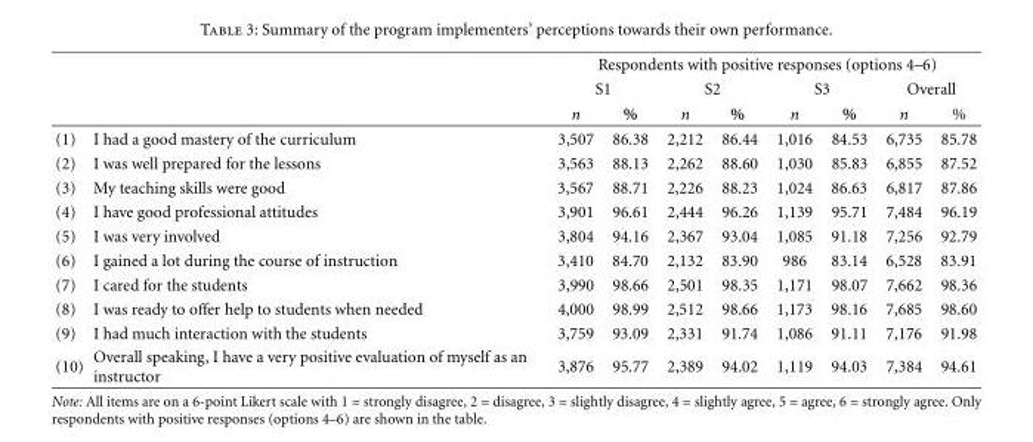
<table><thead><tr><td rowspan="3"></td><td rowspan="3"></td><td colspan="8">Respondents with positive responses (options 4–6)</td></tr><tr><td colspan="2">S1</td><td colspan="2">S2</td><td colspan="2">S3</td><td colspan="2">Overall</td></tr><tr><td>n</td><td>%</td><td>n</td><td>%</td><td>n</td><td>%</td><td>n</td><td>%</td></tr></thead><tbody><tr><td>(1)</td><td>I had a good mastery of the curriculum</td><td>3,507</td><td>86.38</td><td>2,212</td><td>86.44</td><td>1,016</td><td>84.53</td><td>6,735</td><td>85.78</td></tr><tr><td>(2)</td><td>I was well prepared for the lessons</td><td>3,563</td><td>88.13</td><td>2,262</td><td>88.60</td><td>1,030</td><td>85.83</td><td>6,855</td><td>87.52</td></tr><tr><td>(3)</td><td>My teaching skills were good</td><td>3,567</td><td>88.71</td><td>2,226</td><td>88.23</td><td>1,024</td><td>86.63</td><td>6,817</td><td>87.86</td></tr><tr><td>(4)</td><td>I have good professional attitudes</td><td>3,901</td><td>96.61</td><td>2,444</td><td>96.26</td><td>1,139</td><td>95.71</td><td>7,484</td><td>96.19</td></tr><tr><td>(5)</td><td>I was very involved</td><td>3,804</td><td>94.16</td><td>2,367</td><td>93.04</td><td>1,085</td><td>91.18</td><td>7,256</td><td>92.79</td></tr><tr><td>(6)</td><td>I gained a lot during the course of instruction</td><td>3,410</td><td>84.70</td><td>2,132</td><td>83.90</td><td>986</td><td>83.14</td><td>6,528</td><td>83.91</td></tr><tr><td>(7)</td><td>I cared for the students</td><td>3,990</td><td>98.66</td><td>2,501</td><td>98.35</td><td>1,171</td><td>98.07</td><td>7,662</td><td>98.36</td></tr><tr><td>(8)</td><td>I was ready to offer help to students when needed</td><td>4,000</td><td>98.99</td><td>2,512</td><td>98.66</td><td>1,173</td><td>98.16</td><td>7,685</td><td>98.60</td></tr><tr><td>(9)</td><td>I had much interaction with the students</td><td>3,759</td><td>93.09</td><td>2,331</td><td>91.74</td><td>1,086</td><td>91.11</td><td>7,176</td><td>91.98</td></tr><tr><td>(10)</td><td>Overall speaking, I have a very positive evaluation of myself as an instructor</td><td>3,876</td><td>95.77</td><td>2,389</td><td>94.02</td><td>1,119</td><td>94.03</td><td>7,384</td><td>94.61</td></tr></tbody></table>